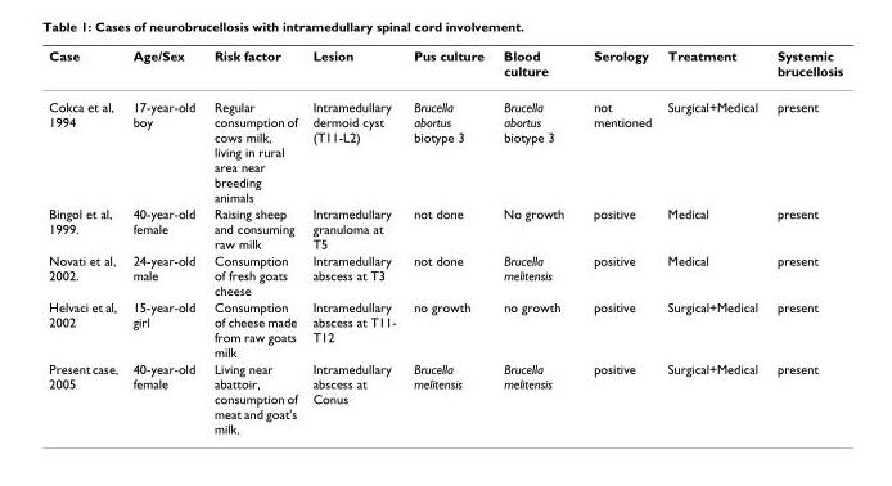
<table><thead><tr><td>Case</td><td>Age/Sex</td><td>Risk factor</td><td>Lesion</td><td>Pus culture</td><td>Blood culture</td><td>Serology</td><td>Treatment</td><td>Systemic brucellosis</td></tr></thead><tbody><tr><td>Cokca et al, 1994</td><td>17-year-old boy</td><td>Regular consumption of cows milk, living in rural area near breeding animals</td><td>Intramedullary dermoid cyst (T11-L2)</td><td>Brucella abortus biotype 3</td><td>Brucella abortus biotype 3</td><td>not mentioned</td><td>Surgical+Medical</td><td>present</td></tr><tr><td>Bingol et al, 1999.</td><td>40-year-old female</td><td>Raising sheep and consuming raw milk</td><td>Intramedullary granuloma at T5</td><td>not done</td><td>No growth</td><td>positive</td><td>Medical</td><td>present</td></tr><tr><td>Novati et al, 2002.</td><td>24-year-old male</td><td>Consumption of fresh goats cheese</td><td>Intramedullary abscess at T3</td><td>not done</td><td>Brucella melitensis</td><td>positive</td><td>Medical</td><td>present</td></tr><tr><td>Helvaci et al, 2002</td><td>15-year-old girl</td><td>Consumption of cheese made from raw goats milk</td><td>Intramedullary abscess at T11- T12</td><td>no growth</td><td>no growth</td><td>positive</td><td>Surgical+Medical</td><td>present</td></tr><tr><td>Present case, 2005</td><td>40-year-old female</td><td>Living near abattoir, consumption of meat and goat&#x27;s milk.</td><td>Intramedullary abscess at Conus</td><td>Brucella melitensis</td><td>Brucella melitensis</td><td>positive</td><td>Surgical+Medical</td><td>present</td></tr></tbody></table>